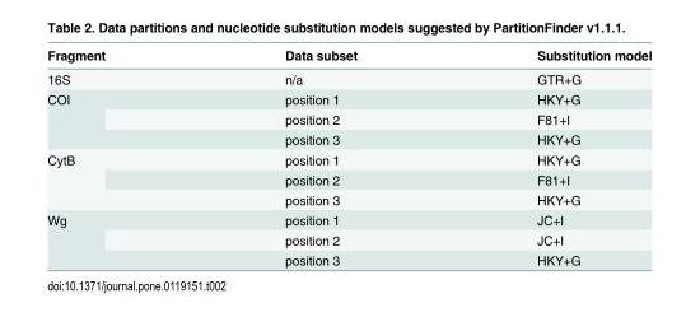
<table><thead><tr><td>Fragment</td><td>Data subset</td><td>Substitution model</td></tr></thead><tbody><tr><td>16S</td><td>n/a</td><td>GTR+G</td></tr><tr><td rowspan="3">COI</td><td>position 1</td><td>HKY+G</td></tr><tr><td>position 2</td><td>F81+I</td></tr><tr><td>position 3</td><td>HKY+G</td></tr><tr><td rowspan="3">CytB</td><td>position 1</td><td>HKY+G</td></tr><tr><td>position 2</td><td>F81+I</td></tr><tr><td>position 3</td><td>HKY+G</td></tr><tr><td rowspan="3">Wg</td><td>position 1</td><td>JC+I</td></tr><tr><td>position 2</td><td>JC+I</td></tr><tr><td>position 3</td><td>HKY+G</td></tr></tbody></table>